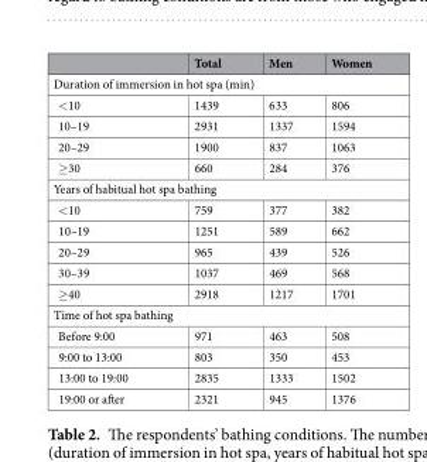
<table><thead><tr><td></td><td>Total</td><td>Men</td><td>Women</td></tr></thead><tbody><tr><td colspan="4">Duration of immersion in hot spa (min)</td></tr><tr><td>&lt;10</td><td>1439</td><td>633</td><td>806</td></tr><tr><td>10–19</td><td>2931</td><td>1337</td><td>1594</td></tr><tr><td>20–29</td><td>1900</td><td>837</td><td>1063</td></tr><tr><td>≥30</td><td>660</td><td>284</td><td>376</td></tr><tr><td colspan="4">Years of habitual hot spa bathing</td></tr><tr><td>&lt;10</td><td>759</td><td>377</td><td>382</td></tr><tr><td>10–19</td><td>1251</td><td>589</td><td>662</td></tr><tr><td>20–29</td><td>965</td><td>439</td><td>526</td></tr><tr><td>30–39</td><td>1037</td><td>469</td><td>568</td></tr><tr><td>≥40</td><td>2918</td><td>1217</td><td>1701</td></tr><tr><td colspan="4">Time of hot spa bathing</td></tr><tr><td>Before 9:00</td><td>971</td><td>463</td><td>508</td></tr><tr><td>9:00 to 13:00</td><td>803</td><td>350</td><td>453</td></tr><tr><td>13:00 to 19:00</td><td>2835</td><td>1333</td><td>1502</td></tr><tr><td>19:00 or after</td><td>2321</td><td>945</td><td>1376</td></tr></tbody></table>